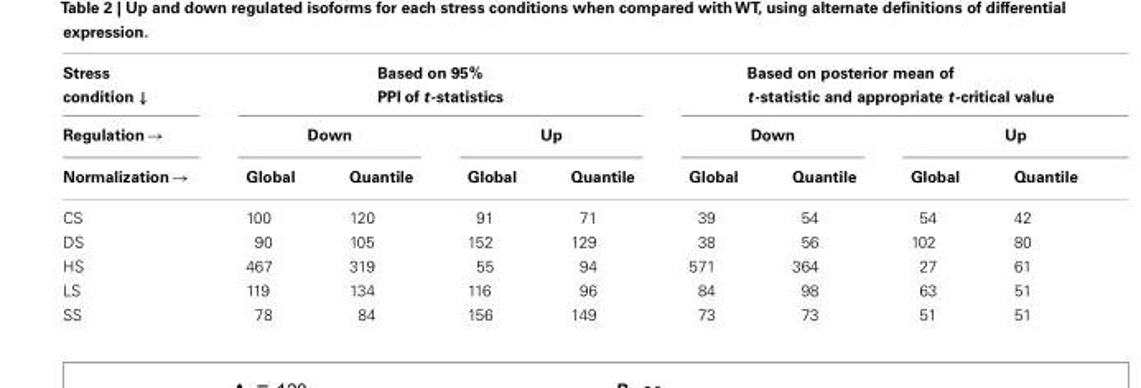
<table><thead><tr><td rowspan="3">Stress condition ↓ Regulation → Normalization →</td><td colspan="4">Based on 95% PPI of t-statistics</td><td colspan="4">Based on posterior mean of t-statistic and appropriate t-critical value</td></tr><tr><td colspan="2">Down</td><td colspan="2">Up</td><td colspan="2">Down</td><td colspan="2">Up</td></tr><tr><td>Global</td><td>Quantile</td><td>Global</td><td>Quantile</td><td>Global</td><td>Quantile</td><td>Global</td><td>Quantile</td></tr></thead><tbody><tr><td>CS</td><td>100</td><td>120</td><td>91</td><td>71</td><td>39</td><td>54</td><td>54</td><td>42</td></tr><tr><td>DS</td><td>90</td><td>105</td><td>152</td><td>129</td><td>38</td><td>56</td><td>102</td><td>80</td></tr><tr><td>HS</td><td>467</td><td>319</td><td>55</td><td>94</td><td>571</td><td>364</td><td>27</td><td>61</td></tr><tr><td>LS</td><td>119</td><td>134</td><td>116</td><td>96</td><td>84</td><td>98</td><td>63</td><td>51</td></tr><tr><td>SS</td><td>78</td><td>84</td><td>156</td><td>149</td><td>73</td><td>73</td><td>51</td><td>51</td></tr></tbody></table>